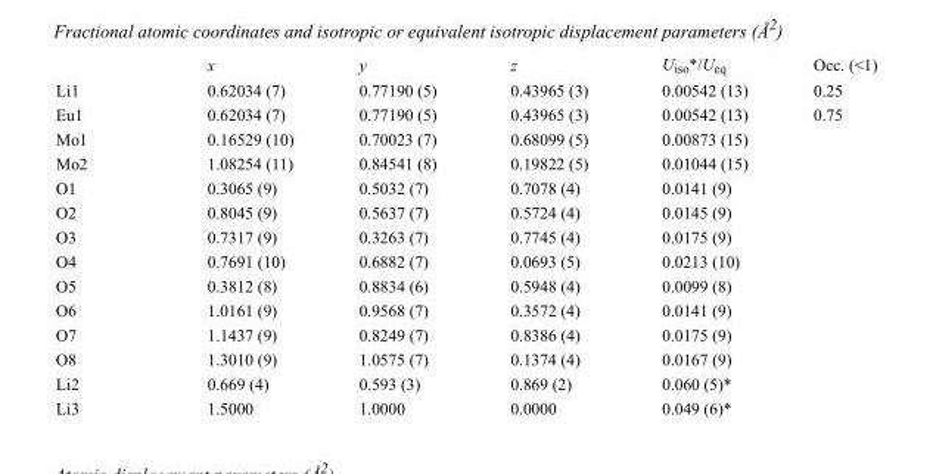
<table><thead><tr><td></td><td>x</td><td>y</td><td>z</td><td>U<sub>iso</sub>*/U<sub>eq</sub></td><td>Occ. (&lt;1)</td></tr></thead><tbody><tr><td>Li1</td><td>0.62034 (7)</td><td>0.77190 (5)</td><td>0.43965 (3)</td><td>0.00542 (13)</td><td>0.25</td></tr><tr><td>Eu1</td><td>0.62034 (7)</td><td>0.77190 (5)</td><td>0.43965 (3)</td><td>0.00542 (13)</td><td>0.75</td></tr><tr><td>Mo1</td><td>0.16529 (10)</td><td>0.70023 (7)</td><td>0.68099 (5)</td><td>0.00873 (15)</td><td></td></tr><tr><td>Mo2</td><td>1.08254 (11)</td><td>0.84541 (8)</td><td>0.19822 (5)</td><td>0.01044 (15)</td><td></td></tr><tr><td>O1</td><td>0.3065 (9)</td><td>0.5032 (7)</td><td>0.7078 (4)</td><td>0.0141 (9)</td><td></td></tr><tr><td>O2</td><td>0.8045 (9)</td><td>0.5637 (7)</td><td>0.5724 (4)</td><td>0.0145 (9)</td><td></td></tr><tr><td>O3</td><td>0.7317 (9)</td><td>0.3263 (7)</td><td>0.7745 (4)</td><td>0.0175 (9)</td><td></td></tr><tr><td>O4</td><td>0.7691 (10)</td><td>0.6882 (7)</td><td>0.0693 (5)</td><td>0.0213 (10)</td><td></td></tr><tr><td>O5</td><td>0.3812 (8)</td><td>0.8834 (6)</td><td>0.5948 (4)</td><td>0.0099 (8)</td><td></td></tr><tr><td>O6</td><td>1.0161 (9)</td><td>0.9568 (7)</td><td>0.3572 (4)</td><td>0.0141 (9)</td><td></td></tr><tr><td>O7</td><td>1.1437 (9)</td><td>0.8249 (7)</td><td>0.8386 (4)</td><td>0.0175 (9)</td><td></td></tr><tr><td>O8</td><td>1.3010 (9)</td><td>1.0575 (7)</td><td>0.1374 (4)</td><td>0.0167 (9)</td><td></td></tr><tr><td>Li2</td><td>0.669 (4)</td><td>0.593 (3)</td><td>0.869 (2)</td><td>0.060 (5)*</td><td></td></tr><tr><td>Li3</td><td>1.5000</td><td>1.0000</td><td>0.0000</td><td>0.049 (6)*</td><td></td></tr></tbody></table>